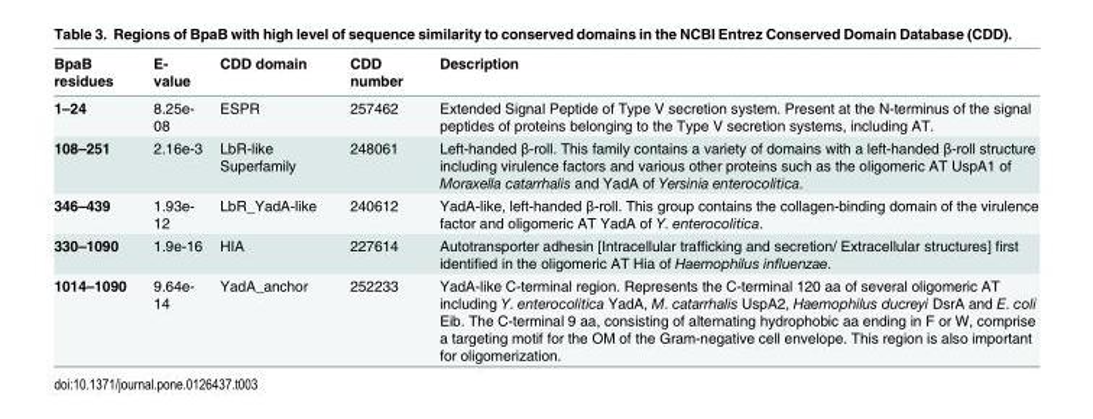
<table><thead><tr><td>BpaB residues</td><td>E- value</td><td>CDD domain</td><td>CDD number</td><td>Description</td></tr></thead><tbody><tr><td>1–24</td><td>8.25e- 08</td><td>ESPR</td><td>257462</td><td>Extended Signal Peptide of Type V secretion system. Present at the N-terminus of the signal peptides of proteins belonging to the Type V secretion systems, including AT.</td></tr><tr><td>108–251</td><td>2.16e-3</td><td>LbR-like Superfamily</td><td>248061</td><td>Left-handed β-roll. This family contains a variety of domains with a left-handed β-roll structure including virulence factors and various other proteins such as the oligomeric AT UspA1 of Moraxella catarrhalis and YadA of Yersinia enterocolitica.</td></tr><tr><td>346–439</td><td>1.93e- 12</td><td>LbR_YadA-like</td><td>240612</td><td>YadA-like, left-handed β-roll. This group contains the collagen-binding domain of the virulence factor and oligomeric AT YadA of Y. enterocolitica.</td></tr><tr><td>330–1090</td><td>1.9e-16</td><td>HIA</td><td>227614</td><td>Autotransporter adhesin [Intracellular trafficking and secretion/ Extracellular structures] first identified in the oligomeric AT Hia of Haemophilus influenzae.</td></tr><tr><td>1014–1090</td><td>9.64e- 14</td><td>YadA_anchor</td><td>252233</td><td>YadA-like C-terminal region. Represents the C-terminal 120 aa of several oligomeric AT including Y. enterocolitica YadA, M. catarrhalis UspA2, Haemophilus ducreyi DsrA and E. coli Eib. The C-terminal 9 aa, consisting of alternating hydrophobic aa ending in F or W, comprise a targeting motif for the OM of the Gram-negative cell envelope. This region is also important for oligomerization.</td></tr></tbody></table>